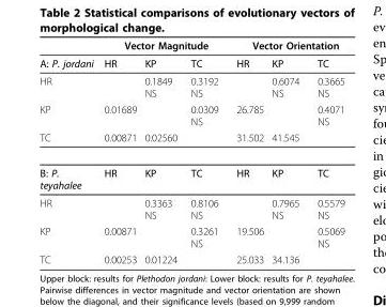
<table><thead><tr><td rowspan="2">A: P. jordani</td><td colspan="3">Vector Magnitude</td><td colspan="3">Vector Orientation</td></tr><tr><td>HR</td><td>KP</td><td>TC</td><td>HR</td><td>KP</td><td>TC</td></tr></thead><tbody><tr><td>HR</td><td></td><td>0.1849 NS</td><td>0.3192 NS</td><td></td><td>0.6074 NS</td><td>0.3665 NS</td></tr><tr><td>KP</td><td>0.01689</td><td></td><td>0.0309 NS</td><td>26.785</td><td></td><td>0.4071 NS</td></tr><tr><td>TC</td><td>0.00871</td><td>0.02560</td><td></td><td>31.502</td><td>41.545</td><td></td></tr><tr><td>B: P. teyahalee</td><td>HR</td><td>KP</td><td>TC</td><td>HR</td><td>KP</td><td>TC</td></tr><tr><td>HR</td><td></td><td>0.3363 NS</td><td>0.8106 NS</td><td></td><td>0.7965 NS</td><td>0.5579 NS</td></tr><tr><td>KP</td><td>0.00871</td><td></td><td>0.3261 NS</td><td>19.506</td><td></td><td>0.5069 NS</td></tr><tr><td>TC</td><td>0.00253</td><td>0.01224</td><td></td><td>25.033</td><td>34.136</td><td></td></tr></tbody></table>